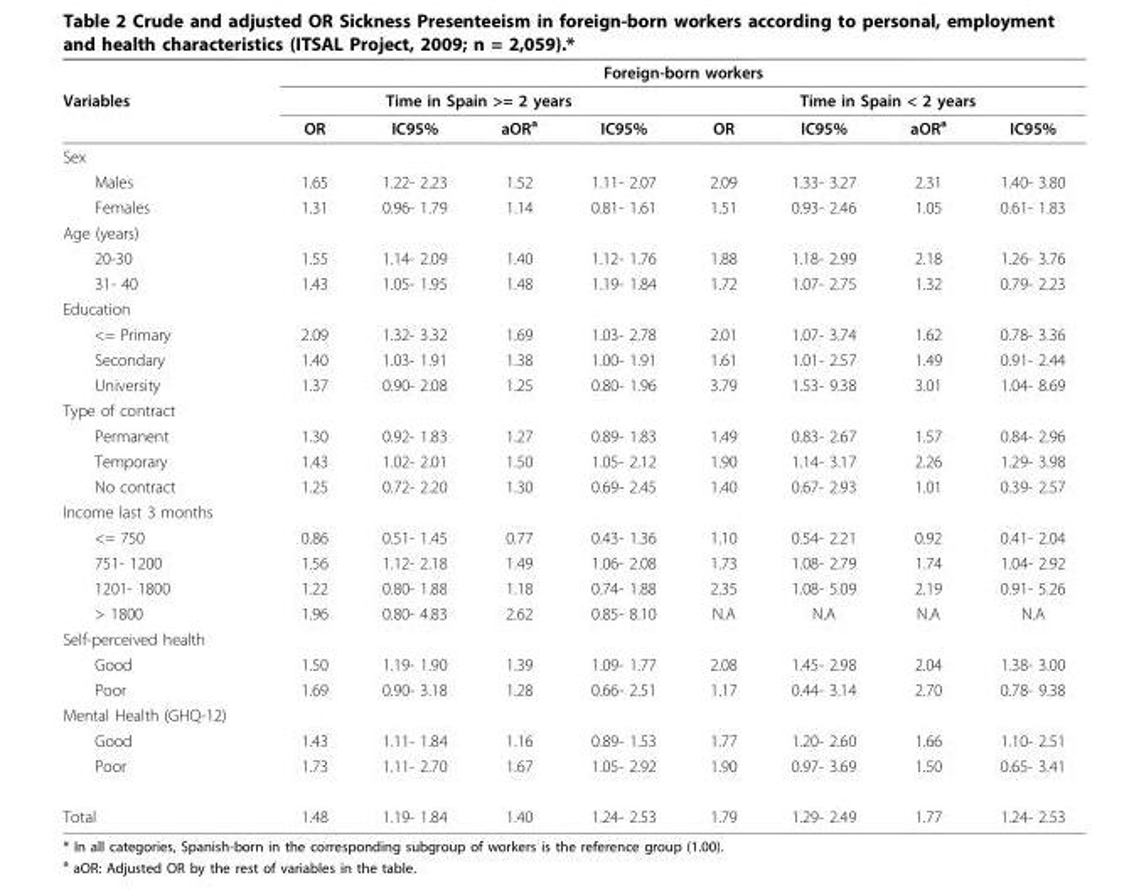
<table><thead><tr><td rowspan="3">Variables</td><td colspan="8">Foreign-born workers</td></tr><tr><td colspan="4">Time in Spain &gt;= 2 years</td><td colspan="4">Time in Spain &lt; 2 years</td></tr><tr><td>OR</td><td>IC95%</td><td>aOR<sup>a</sup></td><td>IC95%</td><td>OR</td><td>IC95%</td><td>aOR<sup>a</sup></td><td>IC95%</td></tr></thead><tbody><tr><td colspan="9">Sex</td></tr><tr><td>Males</td><td>1.65</td><td>1.22- 2.23</td><td>1.52</td><td>1.11- 2.07</td><td>2.09</td><td>1.33- 3.27</td><td>2.31</td><td>1.40- 3.80</td></tr><tr><td>Females</td><td>1.31</td><td>0.96- 1.79</td><td>1.14</td><td>0.81- 1.61</td><td>1.51</td><td>0.93- 2.46</td><td>1.05</td><td>0.61- 1.83</td></tr><tr><td colspan="9">Age (years)</td></tr><tr><td>20-30</td><td>1.55</td><td>1.14- 2.09</td><td>1.40</td><td>1.12- 1.76</td><td>1.88</td><td>1.18- 2.99</td><td>2.18</td><td>1.26- 3.76</td></tr><tr><td>31- 40</td><td>1.43</td><td>1.05- 1.95</td><td>1.48</td><td>1.19- 1.84</td><td>1.72</td><td>1.07- 2.75</td><td>1.32</td><td>0.79- 2.23</td></tr><tr><td colspan="9">Education</td></tr><tr><td>&lt;= Primary</td><td>2.09</td><td>1.32- 3.32</td><td>1.69</td><td>1.03- 2.78</td><td>2.01</td><td>1.07- 3.74</td><td>1.62</td><td>0.78- 3.36</td></tr><tr><td>Secondary</td><td>1.40</td><td>1.03- 1.91</td><td>1.38</td><td>1.00- 1.91</td><td>1.61</td><td>1.01- 2.57</td><td>1.49</td><td>0.91- 2.44</td></tr><tr><td>University</td><td>1.37</td><td>0.90- 2.08</td><td>1.25</td><td>0.80- 1.96</td><td>3.79</td><td>1.53- 9.38</td><td>3.01</td><td>1.04- 8.69</td></tr><tr><td colspan="9">Type of contract</td></tr><tr><td>Permanent</td><td>1.30</td><td>0.92- 1.83</td><td>1.27</td><td>0.89- 1.83</td><td>1.49</td><td>0.83- 2.67</td><td>1.57</td><td>0.84- 2.96</td></tr><tr><td>Temporary</td><td>1.43</td><td>1.02- 2.01</td><td>1.50</td><td>1.05- 2.12</td><td>1.90</td><td>1.14- 3.17</td><td>2.26</td><td>1.29- 3.98</td></tr><tr><td>No contract</td><td>1.25</td><td>0.72- 2.20</td><td>1.30</td><td>0.69- 2.45</td><td>1.40</td><td>0.67- 2.93</td><td>1.01</td><td>0.39- 2.57</td></tr><tr><td colspan="9">Income last 3 months</td></tr><tr><td>&lt;= 750</td><td>0.86</td><td>0.51- 1.45</td><td>0.77</td><td>0.43- 1.36</td><td>1.10</td><td>0.54- 2.21</td><td>0.92</td><td>0.41- 2.04</td></tr><tr><td>751- 1200</td><td>1.56</td><td>1.12- 2.18</td><td>1.49</td><td>1.06- 2.08</td><td>1.73</td><td>1.08- 2.79</td><td>1.74</td><td>1.04- 2.92</td></tr><tr><td>1201- 1800</td><td>1.22</td><td>0.80- 1.88</td><td>1.18</td><td>0.74- 1.88</td><td>2.35</td><td>1.08- 5.09</td><td>2.19</td><td>0.91- 5.26</td></tr><tr><td>&gt; 1800</td><td>1.96</td><td>0.80- 4.83</td><td>2.62</td><td>0.85- 8.10</td><td>N.A</td><td>N.A</td><td>N.A</td><td>N.A</td></tr><tr><td colspan="9">Self-perceived health</td></tr><tr><td>Good</td><td>1.50</td><td>1.19- 1.90</td><td>1.39</td><td>1.09- 1.77</td><td>2.08</td><td>1.45- 2.98</td><td>2.04</td><td>1.38- 3.00</td></tr><tr><td>Poor</td><td>1.69</td><td>0.90- 3.18</td><td>1.28</td><td>0.66- 2.51</td><td>1.17</td><td>0.44- 3.14</td><td>2.70</td><td>0.78- 9.38</td></tr><tr><td colspan="9">Mental Health (GHQ-12)</td></tr><tr><td>Good</td><td>1.43</td><td>1.11- 1.84</td><td>1.16</td><td>0.89- 1.53</td><td>1.77</td><td>1.20- 2.60</td><td>1.66</td><td>1.10- 2.51</td></tr><tr><td>Poor</td><td>1.73</td><td>1.11- 2.70</td><td>1.67</td><td>1.05- 2.92</td><td>1.90</td><td>0.97- 3.69</td><td>1.50</td><td>0.65- 3.41</td></tr><tr><td>Total</td><td>1.48</td><td>1.19- 1.84</td><td>1.40</td><td>1.24- 2.53</td><td>1.79</td><td>1.29- 2.49</td><td>1.77</td><td>1.24- 2.53</td></tr></tbody></table>